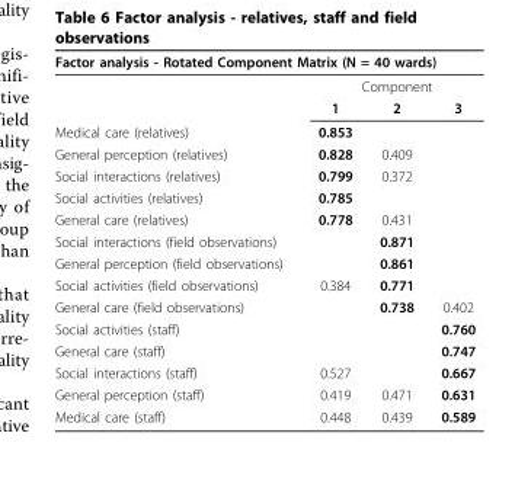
<table><thead><tr><td colspan="4">Factor analysis - Rotated Component Matrix (N = 40 wards)</td></tr><tr><td rowspan="2"></td><td colspan="3">Component</td></tr><tr><td>1</td><td>2</td><td>3</td></tr></thead><tbody><tr><td>Medical care (relatives)</td><td>0.853</td><td></td><td></td></tr><tr><td>General perception (relatives)</td><td>0.828</td><td>0.409</td><td></td></tr><tr><td>Social interactions (relatives)</td><td>0.799</td><td>0.372</td><td></td></tr><tr><td>Social activities (relatives)</td><td>0.785</td><td></td><td></td></tr><tr><td>General care (relatives)</td><td>0.778</td><td>0.431</td><td></td></tr><tr><td>Social interactions (field observations)</td><td></td><td>0.871</td><td></td></tr><tr><td>General perception (field observations)</td><td></td><td>0.861</td><td></td></tr><tr><td>Social activities (field observations)</td><td>0.384</td><td>0.771</td><td></td></tr><tr><td>General care (field observations)</td><td></td><td>0.738</td><td>0.402</td></tr><tr><td>Social activities (staff)</td><td></td><td></td><td>0.760</td></tr><tr><td>General care (staff)</td><td></td><td></td><td>0.747</td></tr><tr><td>Social interactions (staff)</td><td>0.527</td><td></td><td>0.667</td></tr><tr><td>General perception (staff)</td><td>0.419</td><td>0.471</td><td>0.631</td></tr><tr><td>Medical care (staff)</td><td>0.448</td><td>0.439</td><td>0.589</td></tr></tbody></table>